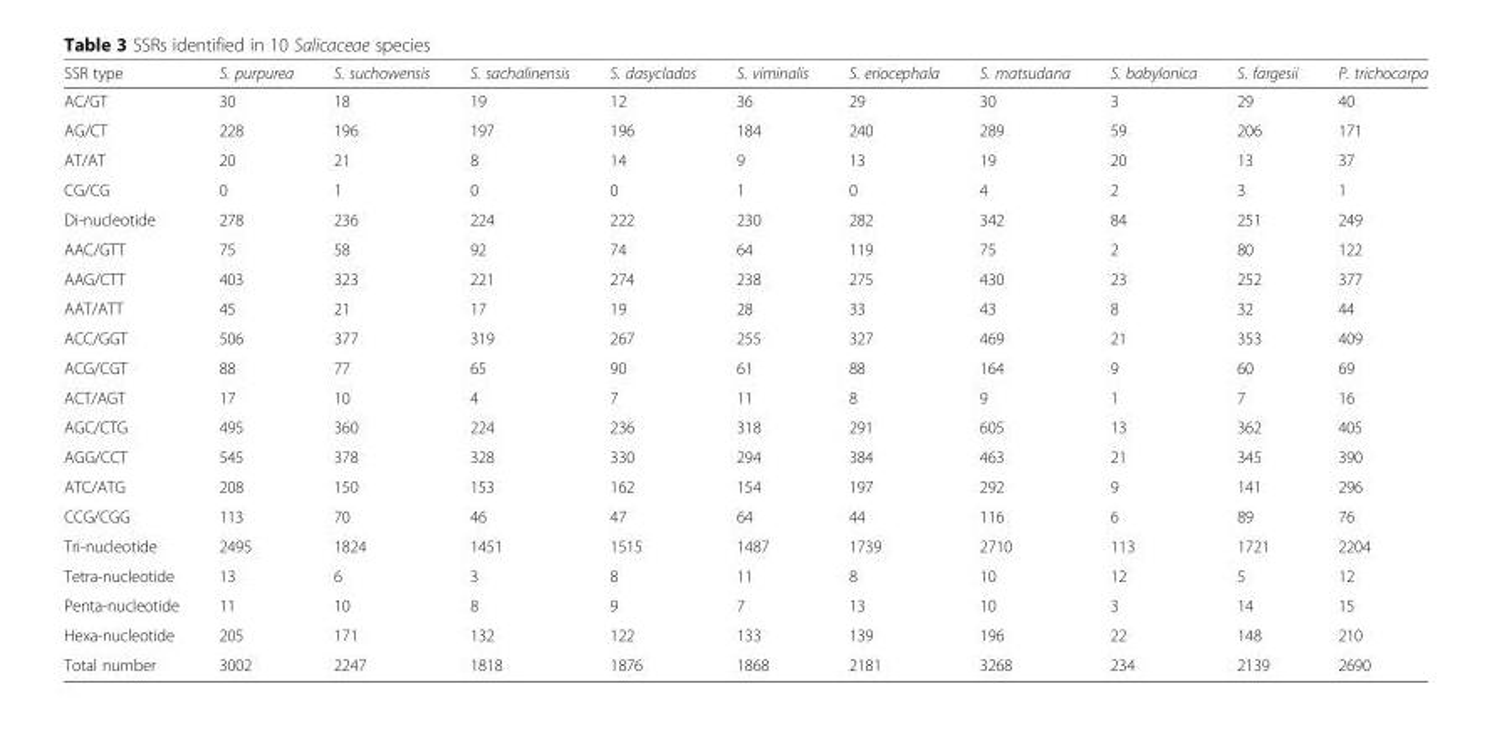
<table><thead><tr><td>SSR type</td><td>S. purpurea</td><td>S. suchowensis</td><td>S. sachalinensis</td><td>S. dasyclados</td><td>S. viminalis</td><td>S. eriocephala</td><td>S. matsudana</td><td>S. babylonica</td><td>S. fargesii</td><td>P. trichocarpa</td></tr></thead><tbody><tr><td>AC/GT</td><td>30</td><td>18</td><td>19</td><td>12</td><td>36</td><td>29</td><td>30</td><td>3</td><td>29</td><td>40</td></tr><tr><td>AG/CT</td><td>228</td><td>196</td><td>197</td><td>196</td><td>184</td><td>240</td><td>289</td><td>59</td><td>206</td><td>171</td></tr><tr><td>AT/AT</td><td>20</td><td>21</td><td>8</td><td>14</td><td>9</td><td>13</td><td>19</td><td>20</td><td>13</td><td>37</td></tr><tr><td>CG/CG</td><td>0</td><td>1</td><td>0</td><td>0</td><td>1</td><td>0</td><td>4</td><td>2</td><td>3</td><td>1</td></tr><tr><td>Di-nucleotide</td><td>278</td><td>236</td><td>224</td><td>222</td><td>230</td><td>282</td><td>342</td><td>84</td><td>251</td><td>249</td></tr><tr><td>AAC/GTT</td><td>75</td><td>58</td><td>92</td><td>74</td><td>64</td><td>119</td><td>75</td><td>2</td><td>80</td><td>122</td></tr><tr><td>AAG/CTT</td><td>403</td><td>323</td><td>221</td><td>274</td><td>238</td><td>275</td><td>430</td><td>23</td><td>252</td><td>377</td></tr><tr><td>AAT/ATT</td><td>45</td><td>21</td><td>17</td><td>19</td><td>28</td><td>33</td><td>43</td><td>8</td><td>32</td><td>44</td></tr><tr><td>ACC/GGT</td><td>506</td><td>377</td><td>319</td><td>267</td><td>255</td><td>327</td><td>469</td><td>21</td><td>353</td><td>409</td></tr><tr><td>ACG/CGT</td><td>88</td><td>77</td><td>65</td><td>90</td><td>61</td><td>88</td><td>164</td><td>9</td><td>60</td><td>69</td></tr><tr><td>ACT/AGT</td><td>17</td><td>10</td><td>4</td><td>7</td><td>11</td><td>8</td><td>9</td><td>1</td><td>7</td><td>16</td></tr><tr><td>AGC/CTG</td><td>495</td><td>360</td><td>224</td><td>236</td><td>318</td><td>291</td><td>605</td><td>13</td><td>362</td><td>405</td></tr><tr><td>AGG/CCT</td><td>545</td><td>378</td><td>328</td><td>330</td><td>294</td><td>384</td><td>463</td><td>21</td><td>345</td><td>390</td></tr><tr><td>ATC/ATG</td><td>208</td><td>150</td><td>153</td><td>162</td><td>154</td><td>197</td><td>292</td><td>9</td><td>141</td><td>296</td></tr><tr><td>CCG/CGG</td><td>113</td><td>70</td><td>46</td><td>47</td><td>64</td><td>44</td><td>116</td><td>6</td><td>89</td><td>76</td></tr><tr><td>Tri-nucleotide</td><td>2495</td><td>1824</td><td>1451</td><td>1515</td><td>1487</td><td>1739</td><td>2710</td><td>113</td><td>1721</td><td>2204</td></tr><tr><td>Tetra-nucleotide</td><td>13</td><td>6</td><td>3</td><td>8</td><td>11</td><td>8</td><td>10</td><td>12</td><td>5</td><td>12</td></tr><tr><td>Penta-nucleotide</td><td>11</td><td>10</td><td>8</td><td>9</td><td>7</td><td>13</td><td>10</td><td>3</td><td>14</td><td>15</td></tr><tr><td>Hexa-nucleotide</td><td>205</td><td>171</td><td>132</td><td>122</td><td>133</td><td>139</td><td>196</td><td>22</td><td>148</td><td>210</td></tr><tr><td>Total number</td><td>3002</td><td>2247</td><td>1818</td><td>1876</td><td>1868</td><td>2181</td><td>3268</td><td>234</td><td>2139</td><td>2690</td></tr></tbody></table>